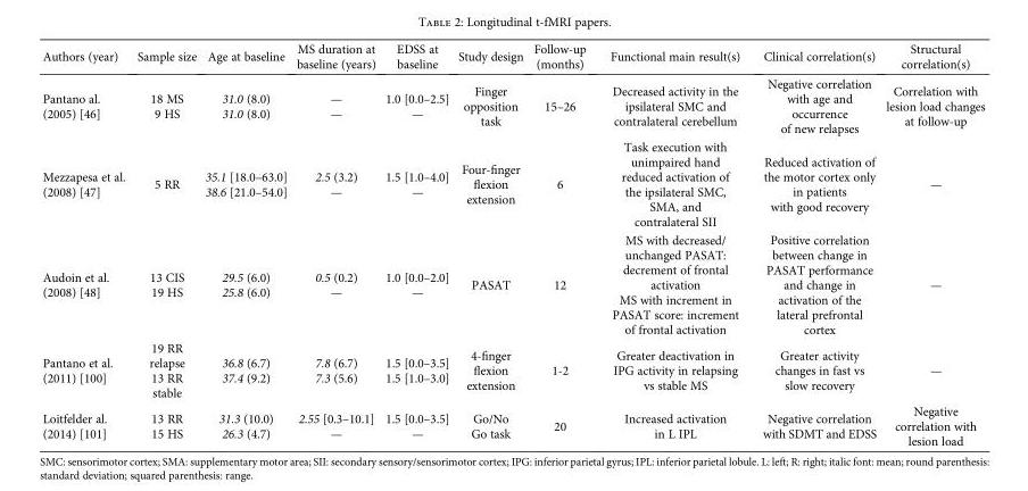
<table><thead><tr><td>Authors (year)</td><td>Sample size</td><td>Age at baseline</td><td>MS duration at baseline (years)</td><td>EDSS at baseline</td><td>Study design</td><td>Follow-up (months)</td><td>Functional main result(s)</td><td>Clinical correlation(s)</td><td>Structural correlation(s)</td></tr></thead><tbody><tr><td>Pantano al. (2005) [46]</td><td>18 MS 9 HS</td><td>31.0 (8.0) 31.0 (8.0)</td><td>— —</td><td>1.0 [0.0–2.5] —</td><td>Finger opposition task</td><td>15–26</td><td>Decreased activity in the ipsilateral SMC and contralateral cerebellum</td><td>Negative correlation with age and occurrence of new relapses</td><td>Correlation with lesion load changes at follow-up</td></tr><tr><td>Mezzapesa et al. (2008) [47]</td><td>5 RR</td><td>35.1 [18.0–63.0] 38.6 [21.0–54.0]</td><td>2.5 (3.2) —</td><td>1.5 [1.0–4.0] —</td><td>Four-finger flexion extension</td><td>6</td><td>Task execution with unimpaired hand reduced activation of the ipsilateral SMC, SMA, and contralateral SII</td><td>Reduced activation of the motor cortex only in patients with good recovery</td><td>—</td></tr><tr><td>Audoin et al. (2008) [48]</td><td>13 CIS 19 HS</td><td>29.5 (6.0) 25.8 (6.0)</td><td>0.5 (0.2) —</td><td>1.0 [0.0–2.0] —</td><td>PASAT</td><td>12</td><td>MS with decreased/ unchanged PASAT: decrement of frontal activation MS with increment in PASAT score: increment of frontal activation</td><td>Positive correlation between change in PASAT performance and change in activation of the lateral prefrontal cortex</td><td>—</td></tr><tr><td>Pantano et al. (2011) [100]</td><td>19 RR relapse 13 RR stable</td><td>36.8 (6.7) 37.4 (9.2)</td><td>7.8 (6.7) 7.3 (5.6)</td><td>1.5 [0.0–3.5] 1.5 [1.0–3.0]</td><td>4-finger flexion extension</td><td>1-2</td><td>Greater deactivation in IPG activity in relapsing vs stable MS</td><td>Greater activity changes in fast vs slow recovery</td><td>—</td></tr><tr><td>Loitfelder al. (2014) [101]</td><td>13 RR 15 HS</td><td>31.3 (10.0) 26.3 (4.7)</td><td>2.55 [0.3–10.1] —</td><td>1.5 [0.0–3.5] —</td><td>Go/No Go task</td><td>20</td><td>Increased activation in L IPL</td><td>Negative correlation with SDMT and EDSS</td><td>Negative correlation with lesion load</td></tr></tbody></table>